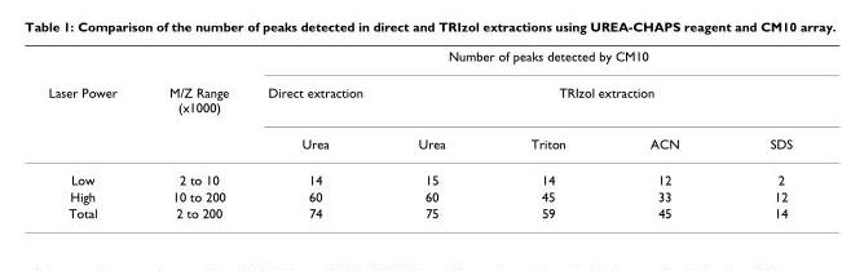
<table><thead><tr><td rowspan="3">Laser Power</td><td rowspan="3">M/Z Range (x1000)</td><td colspan="5">Number of peaks detected by CM10</td></tr><tr><td rowspan="2">Direct extraction Urea</td><td colspan="4">TRIzol extraction</td></tr><tr><td>Urea</td><td>Triton</td><td>ACN</td><td>SDS</td></tr></thead><tbody><tr><td>Low</td><td>2 to 10</td><td>14</td><td>15</td><td>14</td><td>12</td><td>2</td></tr><tr><td>High</td><td>10 to 200</td><td>60</td><td>60</td><td>45</td><td>33</td><td>12</td></tr><tr><td>Total</td><td>2 to 200</td><td>74</td><td>75</td><td>59</td><td>45</td><td>14</td></tr></tbody></table>